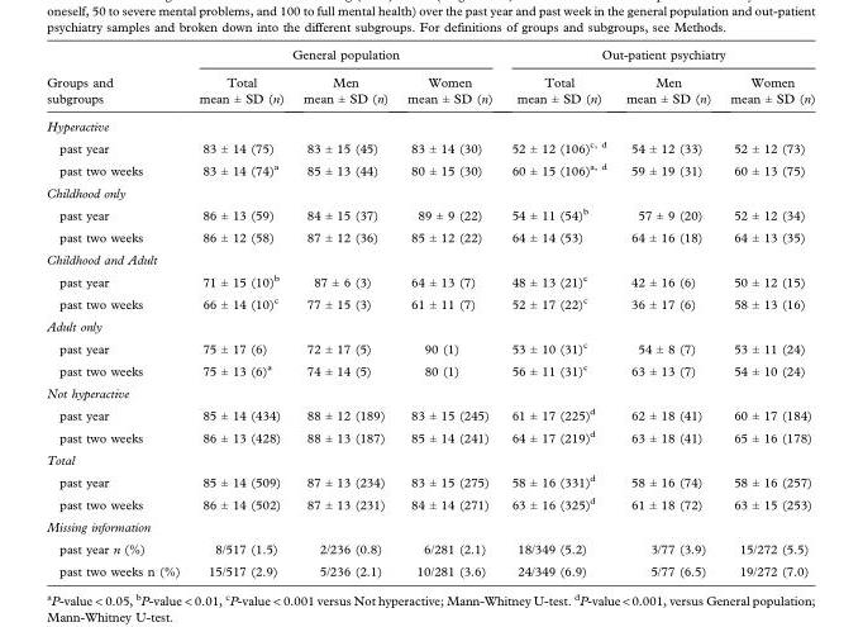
<table><thead><tr><td rowspan="2">Groups and subgroups</td><td colspan="3">General population</td><td colspan="3">Out-patient psychiatry</td></tr><tr><td>Total mean ± SD (n)</td><td>Men mean ± SD (n)</td><td>Women mean ± SD (n)</td><td>Total mean ± SD (n)</td><td>Men mean ± SD (n)</td><td>Women mean ± SD (n)</td></tr></thead><tbody><tr><td colspan="7">Hyperactive</td></tr><tr><td>past year</td><td>83 ± 14 (75)</td><td>83 ± 15 (45)</td><td>83 ± 14 (30)</td><td>52 ± 12 (106)<sup>c, d</sup></td><td>54 ± 12 (33)</td><td>52 ± 12 (73)</td></tr><tr><td>past two weeks</td><td>83 ± 14 (74)<sup>a</sup></td><td>85 ± 13 (44)</td><td>80 ± 15 (30)</td><td>60 ± 15 (106)<sup>a, d</sup></td><td>59 ± 19 (31)</td><td>60 ± 13 (75)</td></tr><tr><td colspan="7">Childhood only</td></tr><tr><td>past year</td><td>86 ± 13 (59)</td><td>84 ± 15 (37)</td><td>89 ± 9 (22)</td><td>54 ± 11 (54)<sup>b</sup></td><td>57 ± 9 (20)</td><td>52 ± 12 (34)</td></tr><tr><td>past two weeks</td><td>86 ± 12 (58)</td><td>87 ± 12 (36)</td><td>85 ± 12 (22)</td><td>64 ± 14 (53)</td><td>64 ± 16 (18)</td><td>64 ± 13 (35)</td></tr><tr><td colspan="7">Childhood and Adult</td></tr><tr><td>past year</td><td>71 ± 15 (10)<sup>b</sup></td><td>87 ± 6 (3)</td><td>64 ± 13 (7)</td><td>48 ± 13 (21)<sup>c</sup></td><td>42 ± 16 (6)</td><td>50 ± 12 (15)</td></tr><tr><td>past two weeks</td><td>66 ± 14 (10)<sup>c</sup></td><td>77 ± 15 (3)</td><td>61 ± 11 (7)</td><td>52 ± 17 (22)<sup>c</sup></td><td>36 ± 17 (6)</td><td>58 ± 13 (16)</td></tr><tr><td colspan="7">Adult only</td></tr><tr><td>past year</td><td>75 ± 17 (6)</td><td>72 ± 17 (5)</td><td>90 (1)</td><td>53 ± 10 (31)<sup>c</sup></td><td>54 ± 8 (7)</td><td>53 ± 11 (24)</td></tr><tr><td>past two weeks</td><td>75 ± 13 (6)<sup>a</sup></td><td>74 ± 14 (5)</td><td>80 (1)</td><td>56 ± 11 (31)<sup>c</sup></td><td>63 ± 13 (7)</td><td>54 ± 10 (24)</td></tr><tr><td colspan="7">Not hyperactive</td></tr><tr><td>past year</td><td>85 ± 14 (434)</td><td>88 ± 12 (189)</td><td>83 ± 15 (245)</td><td>61 ± 17 (225)<sup>d</sup></td><td>62 ± 18 (41)</td><td>60 ± 17 (184)</td></tr><tr><td>past two weeks</td><td>86 ± 13 (428)</td><td>88 ± 13 (187)</td><td>85 ± 14 (241)</td><td>64 ± 17 (219)<sup>d</sup></td><td>63 ± 18 (41)</td><td>65 ± 16 (178)</td></tr><tr><td colspan="7">Total</td></tr><tr><td>past year</td><td>85 ± 14 (509)</td><td>87 ± 13 (234)</td><td>83 ± 15 (275)</td><td>58 ± 16 (331)<sup>d</sup></td><td>58 ± 16 (74)</td><td>58 ± 16 (257)</td></tr><tr><td>past two weeks</td><td>86 ± 14 (502)</td><td>87 ± 13 (231)</td><td>84 ± 14 (271)</td><td>63 ± 16 (325)<sup>d</sup></td><td>61 ± 18 (72)</td><td>63 ± 15 (253)</td></tr><tr><td colspan="7">Missing information</td></tr><tr><td>past year n (%)</td><td>8/517 (1.5)</td><td>2/236 (0.8)</td><td>6/281 (2.1)</td><td>18/349 (5.2)</td><td>3/77 (3.9)</td><td>15/272 (5.5)</td></tr><tr><td>past two weeks n (%)</td><td>15/517 (2.9)</td><td>5/236 (2.1)</td><td>10/281 (3.6)</td><td>24/349 (6.9)</td><td>5/77 (6.5)</td><td>19/272 (7.0)</td></tr></tbody></table>